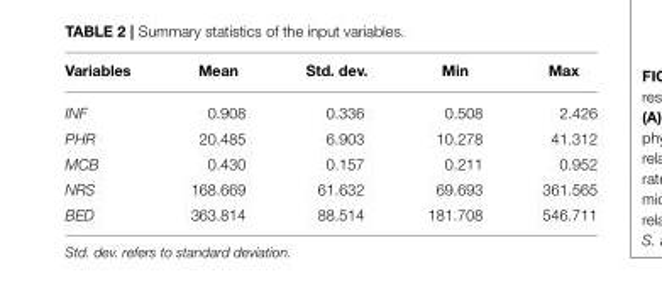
<table><thead><tr><td>Variables</td><td>Mean</td><td>Std. dev.</td><td>Min</td><td>Max</td></tr></thead><tbody><tr><td>INF</td><td>0.908</td><td>0.336</td><td>0.508</td><td>2.426</td></tr><tr><td>PHR</td><td>20.485</td><td>6.903</td><td>10.278</td><td>41.312</td></tr><tr><td>MCB</td><td>0.430</td><td>0.157</td><td>0.211</td><td>0.952</td></tr><tr><td>NRS</td><td>168.669</td><td>61.632</td><td>69.693</td><td>361.565</td></tr><tr><td>BED</td><td>363.814</td><td>88.514</td><td>181.708</td><td>546.711</td></tr></tbody></table>